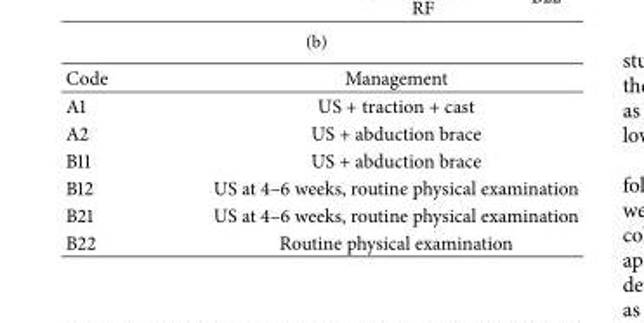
<table><tbody><tr><td>Code</td><td>Management</td></tr><tr><td>A1</td><td>US + traction + cast</td></tr><tr><td>A2</td><td>US + abduction brace</td></tr><tr><td>B11</td><td>US + abduction brace</td></tr><tr><td>B12</td><td>US at 4–6 weeks, routine physical examination</td></tr><tr><td>B21</td><td>US at 4–6 weeks, routine physical examination</td></tr><tr><td>B22</td><td>Routine physical examination</td></tr></tbody></table>